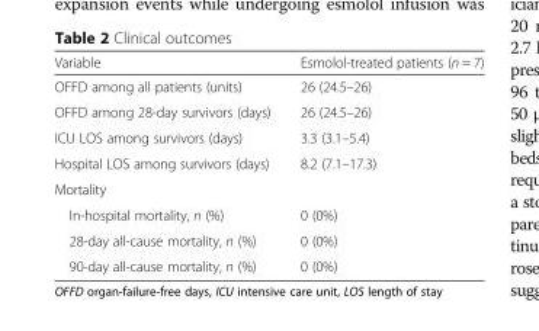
<table><thead><tr><td>Variable</td><td>Esmolol-treated patients (n = 7)</td></tr></thead><tbody><tr><td>OFFD among all patients (units)</td><td>26 (24.5–26)</td></tr><tr><td>OFFD among 28-day survivors (days)</td><td>26 (24.5–26)</td></tr><tr><td>ICU LOS among survivors (days)</td><td>3.3 (3.1–5.4)</td></tr><tr><td>Hospital LOS among survivors (days)</td><td>8.2 (7.1–17.3)</td></tr><tr><td colspan="2">Mortality</td></tr><tr><td>In-hospital mortality, n (%)</td><td>0 (0%)</td></tr><tr><td>28-day all-cause mortality, n (%)</td><td>0 (0%)</td></tr><tr><td>90-day all-cause mortality, n (%)</td><td>0 (0%)</td></tr></tbody></table>